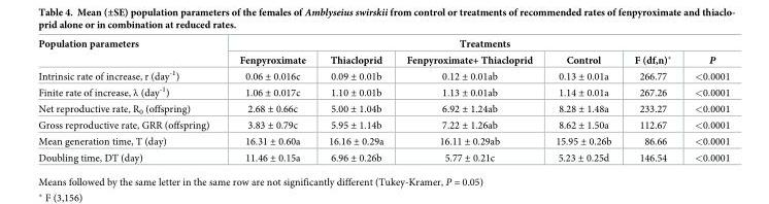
<table><thead><tr><td rowspan="2">Population parameters</td><td colspan="6">Treatments</td></tr><tr><td>Fenpyroximate</td><td>Thiacloprid</td><td>Fenpyroximate+ Thiacloprid</td><td>Control</td><td>F (df,n)*</td><td>P</td></tr></thead><tbody><tr><td>Intrinsic rate of increase, r (day<sup>-1</sup>)</td><td>0.06 ± 0.016c</td><td>0.09 ± 0.01b</td><td>0.12 ± 0.01ab</td><td>0.13 ± 0.01a</td><td>266.77</td><td>&lt;0.0001</td></tr><tr><td>Finite rate of increase, λ (day<sup>-1</sup>)</td><td>1.06 ± 0.017c</td><td>1.10 ± 0.01b</td><td>1.13 ± 0.01ab</td><td>1.14 ± 0.01a</td><td>267.26</td><td>&lt;0.0001</td></tr><tr><td>Net reproductive rate, R<sub>0</sub> (offspring)</td><td>2.68 ± 0.66c</td><td>5.00 ± 1.04b</td><td>6.92 ± 1.24ab</td><td>8.28 ± 1.48a</td><td>233.27</td><td>&lt;0.0001</td></tr><tr><td>Gross reproductive rate, GRR (offspring)</td><td>3.83 ± 0.79c</td><td>5.95 ± 1.14b</td><td>7.22 ± 1.26ab</td><td>8.62 ± 1.50a</td><td>112.67</td><td>&lt;0.0001</td></tr><tr><td>Mean generation time, T (day)</td><td>16.31 ± 0.60a</td><td>16.16 ± 0.29a</td><td>16.11 ± 0.29ab</td><td>15.95 ± 0.26b</td><td>86.66</td><td>&lt;0.0001</td></tr><tr><td>Doubling time, DT (day)</td><td>11.46 ± 0.15a</td><td>6.96 ± 0.26b</td><td>5.77 ± 0.21c</td><td>5.23 ± 0.25d</td><td>146.54</td><td>&lt;0.0001</td></tr></tbody></table>